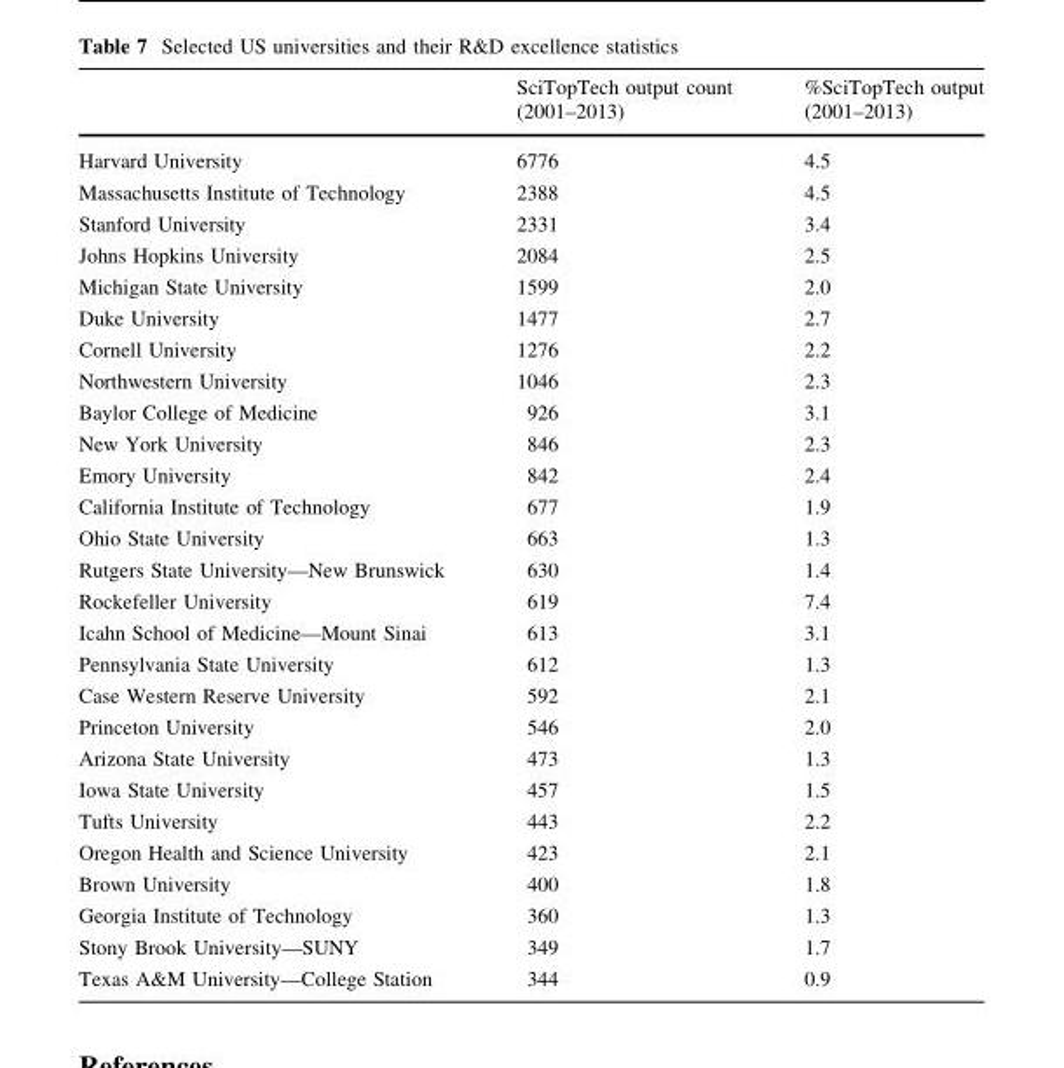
<table><thead><tr><td></td><td>SciTopTech output count (2001–2013)</td><td>%SciTopTech output (2001–2013)</td></tr></thead><tbody><tr><td>Harvard University</td><td>6776</td><td>4.5</td></tr><tr><td>Massachusetts Institute of Technology</td><td>2388</td><td>4.5</td></tr><tr><td>Stanford University</td><td>2331</td><td>3.4</td></tr><tr><td>Johns Hopkins University</td><td>2084</td><td>2.5</td></tr><tr><td>Michigan State University</td><td>1599</td><td>2.0</td></tr><tr><td>Duke University</td><td>1477</td><td>2.7</td></tr><tr><td>Cornell University</td><td>1276</td><td>2.2</td></tr><tr><td>Northwestern University</td><td>1046</td><td>2.3</td></tr><tr><td>Baylor College of Medicine</td><td>926</td><td>3.1</td></tr><tr><td>New York University</td><td>846</td><td>2.3</td></tr><tr><td>Emory University</td><td>842</td><td>2.4</td></tr><tr><td>California Institute of Technology</td><td>677</td><td>1.9</td></tr><tr><td>Ohio State University</td><td>663</td><td>1.3</td></tr><tr><td>Rutgers State University—New Brunswick</td><td>630</td><td>1.4</td></tr><tr><td>Rockefeller University</td><td>619</td><td>7.4</td></tr><tr><td>Icahn School of Medicine—Mount Sinai</td><td>613</td><td>3.1</td></tr><tr><td>Pennsylvania State University</td><td>612</td><td>1.3</td></tr><tr><td>Case Western Reserve University</td><td>592</td><td>2.1</td></tr><tr><td>Princeton University</td><td>546</td><td>2.0</td></tr><tr><td>Arizona State University</td><td>473</td><td>1.3</td></tr><tr><td>Iowa State University</td><td>457</td><td>1.5</td></tr><tr><td>Tufts University</td><td>443</td><td>2.2</td></tr><tr><td>Oregon Health and Science University</td><td>423</td><td>2.1</td></tr><tr><td>Brown University</td><td>400</td><td>1.8</td></tr><tr><td>Georgia Institute of Technology</td><td>360</td><td>1.3</td></tr><tr><td>Stony Brook University—SUNY</td><td>349</td><td>1.7</td></tr><tr><td>Texas A&amp;M University—College Station</td><td>344</td><td>0.9</td></tr></tbody></table>